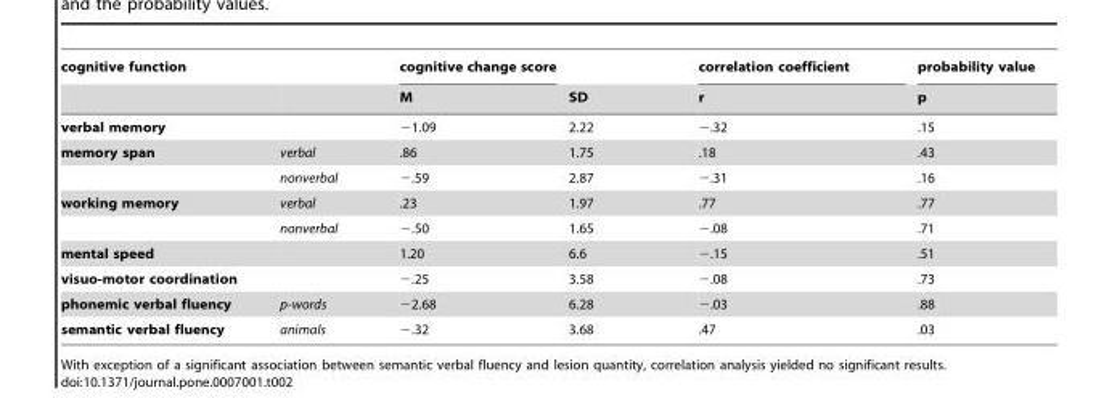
<table><thead><tr><td rowspan="2">cognitive function</td><td rowspan="2"></td><td rowspan="2">cognitive change score M</td><td rowspan="2">SD</td><td rowspan="2">correlation coefficient r</td><td rowspan="2">probability value p</td></tr><tr></tr></thead><tbody><tr><td>verbal memory</td><td></td><td>−1.09</td><td>2.22</td><td>−.32</td><td>.15</td></tr><tr><td rowspan="2">memory span</td><td>verbal</td><td>.86</td><td>1.75</td><td>.18</td><td>.43</td></tr><tr><td>nonverbal</td><td>−.59</td><td>2.87</td><td>−.31</td><td>.16</td></tr><tr><td rowspan="2">working memory</td><td>verbal</td><td>.23</td><td>1.97</td><td>.77</td><td>.77</td></tr><tr><td>nonverbal</td><td>−.50</td><td>1.65</td><td>−.08</td><td>.71</td></tr><tr><td>mental speed</td><td></td><td>1.20</td><td>6.6</td><td>−.15</td><td>.51</td></tr><tr><td>visuo-motor coordination</td><td></td><td>−.25</td><td>3.58</td><td>−.08</td><td>.73</td></tr><tr><td>phonemic verbal fluency</td><td>p-words</td><td>−2.68</td><td>6.28</td><td>−.03</td><td>.88</td></tr><tr><td>semantic verbal fluency</td><td>animals</td><td>−.32</td><td>3.68</td><td>.47</td><td>.03</td></tr></tbody></table>